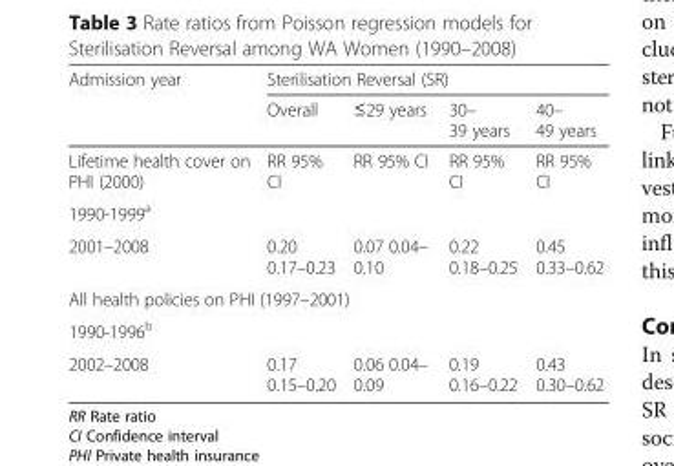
<table><thead><tr><td rowspan="2">Admission year</td><td colspan="4">Sterilisation Reversal (SR)</td></tr><tr><td>Overall</td><td>≤29 years</td><td>30– 39 years</td><td>40– 49 years</td></tr></thead><tbody><tr><td>Lifetime health cover on PHI (2000)</td><td>RR 95% CI</td><td>RR 95% CI</td><td>RR 95% CI</td><td>RR 95% CI</td></tr><tr><td colspan="5">1990-1999<sup>a</sup></td></tr><tr><td>2001–2008</td><td>0.20 0.17–0.23</td><td>0.07 0.04– 0.10</td><td>0.22 0.18–0.25</td><td>0.45 0.33–0.62</td></tr><tr><td colspan="5">All health policies on PHI (1997–2001)</td></tr><tr><td colspan="5">1990-1996<sup>b</sup></td></tr><tr><td>2002–2008</td><td>0.17 0.15–0.20</td><td>0.06 0.04– 0.09</td><td>0.19 0.16–0.22</td><td>0.43 0.30–0.62</td></tr></tbody></table>